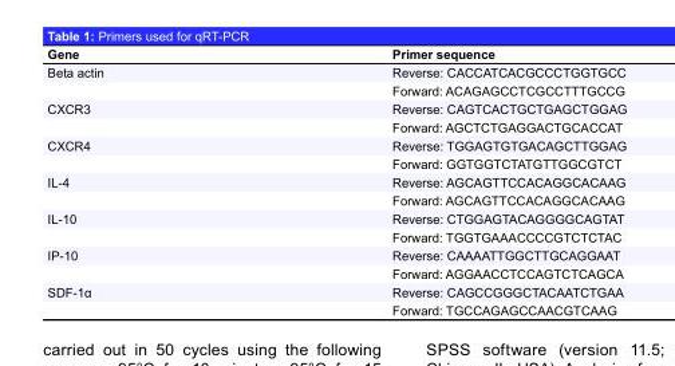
<table><thead><tr><td>Gene</td><td>Primer sequence</td></tr></thead><tbody><tr><td rowspan="2">Beta actin</td><td>Reverse: CACCATCACGCCCTGGTGCC</td></tr><tr><td>Forward: ACAGAGCCTCGCCTTTGCCG</td></tr><tr><td rowspan="2">CXCR3</td><td>Reverse: CAGTCACTGCTGAGCTGGAG</td></tr><tr><td>Forward: AGCTCTGAGGACTGCACCAT</td></tr><tr><td rowspan="2">CXCR4</td><td>Reverse: TGGAGTGTGACAGCTTGGAG</td></tr><tr><td>Forward: GGTGGTCTATGTTGGCGTCT</td></tr><tr><td rowspan="2">IL-4</td><td>Reverse: AGCAGTTCCACAGGCACAAG</td></tr><tr><td>Forward: AGCAGTTCCACAGGCACAAG</td></tr><tr><td rowspan="2">IL-10</td><td>Reverse: CTGGAGTACAGGGGCAGTAT</td></tr><tr><td>Forward: TGGTGAAACCCCGTCTCTAC</td></tr><tr><td rowspan="2">IP-10</td><td>Reverse: CAAAATTGGCTTGCAGGAAT</td></tr><tr><td>Forward: AGGAACCTCCAGTCTCAGCA</td></tr><tr><td rowspan="2">SDF-1α</td><td>Reverse: CAGCCGGGCTACAATCTGAA</td></tr><tr><td>Forward: TGCCAGAGCCAACGTCAAG</td></tr></tbody></table>